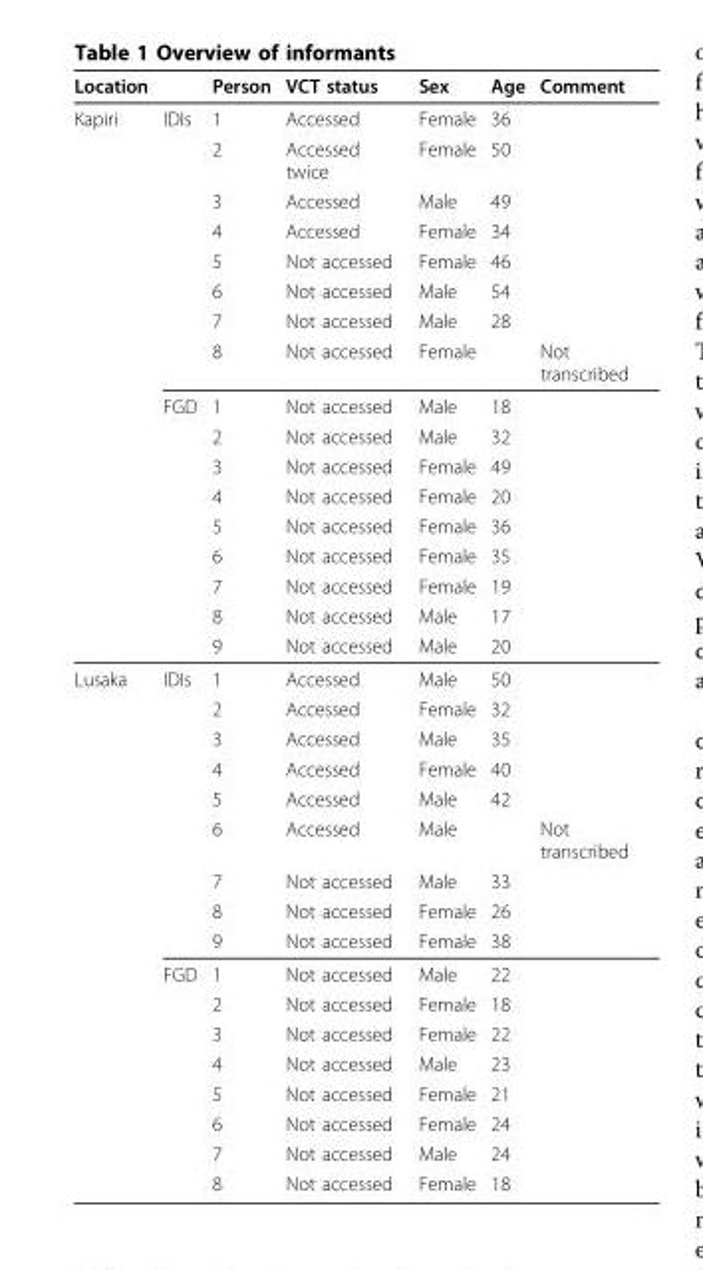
<table><thead><tr><td>Location</td><td></td><td>Person</td><td>VCT status</td><td>Sex</td><td>Age</td><td>Comment</td></tr></thead><tbody><tr><td rowspan="17">Kapiri</td><td>IDIs</td><td>1</td><td>Accessed</td><td>Female</td><td>36</td><td></td></tr><tr><td></td><td>2</td><td>Accessed twice</td><td>Female</td><td>50</td><td></td></tr><tr><td></td><td>3</td><td>Accessed</td><td>Male</td><td>49</td><td></td></tr><tr><td></td><td>4</td><td>Accessed</td><td>Female</td><td>34</td><td></td></tr><tr><td></td><td>5</td><td>Not accessed</td><td>Female</td><td>46</td><td></td></tr><tr><td></td><td>6</td><td>Not accessed</td><td>Male</td><td>54</td><td></td></tr><tr><td></td><td>7</td><td>Not accessed</td><td>Male</td><td>28</td><td></td></tr><tr><td></td><td>8</td><td>Not accessed</td><td>Female</td><td></td><td>Not transcribed</td></tr><tr><td>FGD</td><td>1</td><td>Not accessed</td><td>Male</td><td>18</td><td></td></tr><tr><td></td><td>2</td><td>Not accessed</td><td>Male</td><td>32</td><td></td></tr><tr><td></td><td>3</td><td>Not accessed</td><td>Female</td><td>49</td><td></td></tr><tr><td></td><td>4</td><td>Not accessed</td><td>Female</td><td>20</td><td></td></tr><tr><td></td><td>5</td><td>Not accessed</td><td>Female</td><td>36</td><td></td></tr><tr><td></td><td>6</td><td>Not accessed</td><td>Female</td><td>35</td><td></td></tr><tr><td></td><td>7</td><td>Not accessed</td><td>Female</td><td>19</td><td></td></tr><tr><td></td><td>8</td><td>Not accessed</td><td>Male</td><td>17</td><td></td></tr><tr><td></td><td>9</td><td>Not accessed</td><td>Male</td><td>20</td><td></td></tr><tr><td rowspan="17">Lusaka</td><td>IDIs</td><td>1</td><td>Accessed</td><td>Male</td><td>50</td><td></td></tr><tr><td></td><td>2</td><td>Accessed</td><td>Female</td><td>32</td><td></td></tr><tr><td></td><td>3</td><td>Accessed</td><td>Male</td><td>35</td><td></td></tr><tr><td></td><td>4</td><td>Accessed</td><td>Female</td><td>40</td><td></td></tr><tr><td></td><td>5</td><td>Accessed</td><td>Male</td><td>42</td><td></td></tr><tr><td></td><td>6</td><td>Accessed</td><td>Male</td><td></td><td>Not transcribed</td></tr><tr><td></td><td>7</td><td>Not accessed</td><td>Male</td><td>33</td><td></td></tr><tr><td></td><td>8</td><td>Not accessed</td><td>Female</td><td>26</td><td></td></tr><tr><td></td><td>9</td><td>Not accessed</td><td>Female</td><td>38</td><td></td></tr><tr><td>FGD</td><td>1</td><td>Not accessed</td><td>Male</td><td>22</td><td></td></tr><tr><td></td><td>2</td><td>Not accessed</td><td>Female</td><td>18</td><td></td></tr><tr><td></td><td>3</td><td>Not accessed</td><td>Female</td><td>22</td><td></td></tr><tr><td></td><td>4</td><td>Not accessed</td><td>Male</td><td>23</td><td></td></tr><tr><td></td><td>5</td><td>Not accessed</td><td>Female</td><td>21</td><td></td></tr><tr><td></td><td>6</td><td>Not accessed</td><td>Female</td><td>24</td><td></td></tr><tr><td></td><td>7</td><td>Not accessed</td><td>Male</td><td>24</td><td></td></tr><tr><td></td><td>8</td><td>Not accessed</td><td>Female</td><td>18</td><td></td></tr></tbody></table>